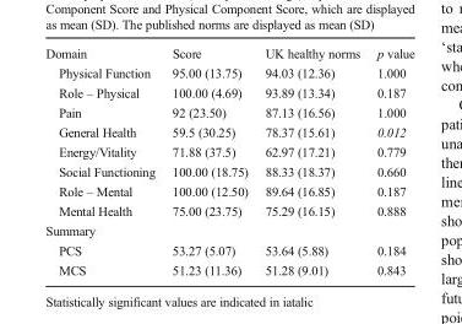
<table><tbody><tr><td>Domain</td><td>Score</td><td>UK healthy norms</td><td>p value</td></tr><tr><td>Physical Function</td><td>95.00 (13.75)</td><td>94.03 (12.36)</td><td>1.000</td></tr><tr><td>Role – Physical</td><td>100.00 (4.69)</td><td>93.89 (13.34)</td><td>0.187</td></tr><tr><td>Pain</td><td>92 (23.50)</td><td>87.13 (16.56)</td><td>1.000</td></tr><tr><td>General Health</td><td>59.5 (30.25)</td><td>78.37 (15.61)</td><td>0.012</td></tr><tr><td>Energy/Vitality</td><td>71.88 (37.5)</td><td>62.97 (17.21)</td><td>0.779</td></tr><tr><td>Social Functioning</td><td>100.00 (18.75)</td><td>88.33 (18.37)</td><td>0.660</td></tr><tr><td>Role – Mental</td><td>100.00 (12.50)</td><td>89.64 (16.85)</td><td>0.187</td></tr><tr><td>Mental Health</td><td>75.00 (23.75)</td><td>75.29 (16.15)</td><td>0.888</td></tr><tr><td colspan="4">Summary</td></tr><tr><td>PCS</td><td>53.27 (5.07)</td><td>53.64 (5.88)</td><td>0.184</td></tr><tr><td>MCS</td><td>51.23 (11.36)</td><td>51.28 (9.01)</td><td>0.843</td></tr></tbody></table>